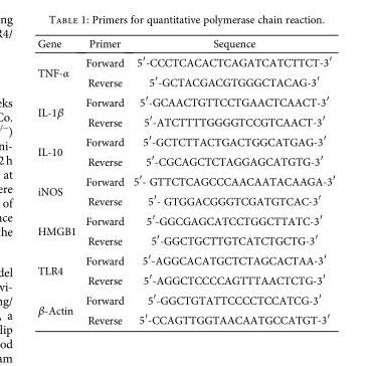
<table><thead><tr><td>Gene</td><td>Primer</td><td>Sequence</td></tr></thead><tbody><tr><td rowspan="2">TNF-α</td><td>Forward</td><td>5′-CCCTCACACTCAGATCATCTTCT-3′</td></tr><tr><td>Reverse</td><td>5′-GCTACGACGTGGGCTACAG-3′</td></tr><tr><td rowspan="2">IL-1β</td><td>Forward</td><td>5′-GCAACTGTTCCTGAACTCAACT-3′</td></tr><tr><td>Reverse</td><td>5′-ATCTTTTGGGGTCCGTCAACT-3′</td></tr><tr><td rowspan="2">IL-10</td><td>Forward</td><td>5′-GCTCTTACTGACTGGCATGAG-3′</td></tr><tr><td>Reverse</td><td>5′-CGCAGCTCTAGGAGCATGTG-3′</td></tr><tr><td rowspan="2">iNOS</td><td>Forward</td><td>5′- GTTCTCAGCCCAACAATACAAGA-3′</td></tr><tr><td>Reverse</td><td>5′- GTGGACGGGTCGATGTCAC-3′</td></tr><tr><td rowspan="2">HMGB1</td><td>Forward</td><td>5′-GGCGAGCATCCTGGCTTATC-3′</td></tr><tr><td>Reverse</td><td>5′-GGCTGCTTGTCATCTGCTG-3′</td></tr><tr><td rowspan="2">TLR4</td><td>Forward</td><td>5′-AGGCACATGCTCTAGCACTAA-3′</td></tr><tr><td>Reverse</td><td>5′-AGGCTCCCCAGTTTAACTCTG-3′</td></tr><tr><td rowspan="2">β-Actin</td><td>Forward</td><td>5′-GGCTGTATTCCCCTCCATCG-3′</td></tr><tr><td>Reverse</td><td>5′-CCAGTTGGTAACAATGCCATGT-3′</td></tr></tbody></table>